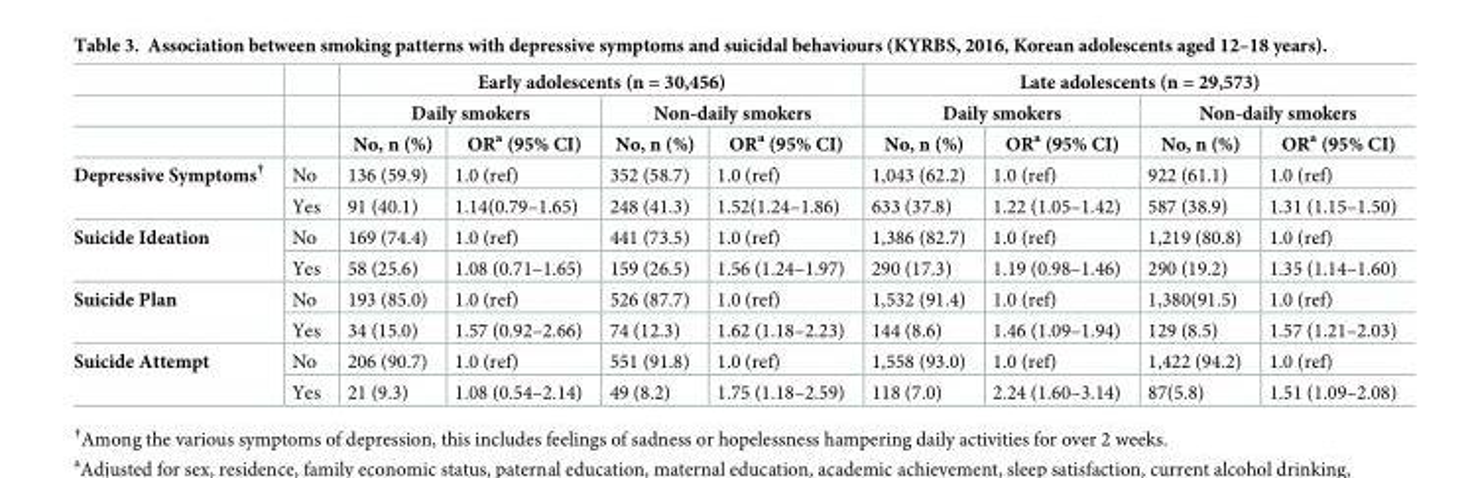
<table><thead><tr><td rowspan="3"></td><td rowspan="3"></td><td colspan="4">Early adolescents (n = 30,456)</td><td colspan="4">Late adolescents (n = 29,573)</td></tr><tr><td colspan="2">Daily smokers</td><td colspan="2">Non-daily smokers</td><td colspan="2">Daily smokers</td><td colspan="2">Non-daily smokers</td></tr><tr><td>No, n (%)</td><td>OR<sup>a</sup> (95% CI)</td><td>No, n (%)</td><td>OR<sup>a</sup> (95% CI)</td><td>No, n (%)</td><td>OR<sup>a</sup> (95% CI)</td><td>No, n (%)</td><td>OR<sup>a</sup> (95% CI)</td></tr></thead><tbody><tr><td rowspan="2">Depressive Symptoms<sup>†</sup></td><td>No</td><td>136 (59.9)</td><td>1.0 (ref)</td><td>352 (58.7)</td><td>1.0 (ref)</td><td>1,043 (62.2)</td><td>1.0 (ref)</td><td>922 (61.1)</td><td>1.0 (ref)</td></tr><tr><td>Yes</td><td>91 (40.1)</td><td>1.14(0.79–1.65)</td><td>248 (41.3)</td><td>1.52(1.24–1.86)</td><td>633 (37.8)</td><td>1.22 (1.05–1.42)</td><td>587 (38.9)</td><td>1.31 (1.15–1.50)</td></tr><tr><td rowspan="2">Suicide Ideation</td><td>No</td><td>169 (74.4)</td><td>1.0 (ref)</td><td>441 (73.5)</td><td>1.0 (ref)</td><td>1,386 (82.7)</td><td>1.0 (ref)</td><td>1,219 (80.8)</td><td>1.0 (ref)</td></tr><tr><td>Yes</td><td>58 (25.6)</td><td>1.08 (0.71–1.65)</td><td>159 (26.5)</td><td>1.56 (1.24–1.97)</td><td>290 (17.3)</td><td>1.19 (0.98–1.46)</td><td>290 (19.2)</td><td>1.35 (1.14–1.60)</td></tr><tr><td rowspan="2">Suicide Plan</td><td>No</td><td>193 (85.0)</td><td>1.0 (ref)</td><td>526 (87.7)</td><td>1.0 (ref)</td><td>1,532 (91.4)</td><td>1.0 (ref)</td><td>1,380(91.5)</td><td>1.0 (ref)</td></tr><tr><td>Yes</td><td>34 (15.0)</td><td>1.57 (0.92–2.66)</td><td>74 (12.3)</td><td>1.62 (1.18–2.23)</td><td>144 (8.6)</td><td>1.46 (1.09–1.94)</td><td>129 (8.5)</td><td>1.57 (1.21–2.03)</td></tr><tr><td rowspan="2">Suicide Attempt</td><td>No</td><td>206 (90.7)</td><td>1.0 (ref)</td><td>551 (91.8)</td><td>1.0 (ref)</td><td>1,558 (93.0)</td><td>1.0 (ref)</td><td>1,422 (94.2)</td><td>1.0 (ref)</td></tr><tr><td>Yes</td><td>21 (9.3)</td><td>1.08 (0.54–2.14)</td><td>49 (8.2)</td><td>1.75 (1.18–2.59)</td><td>118 (7.0)</td><td>2.24 (1.60–3.14)</td><td>87(5.8)</td><td>1.51 (1.09–2.08)</td></tr></tbody></table>